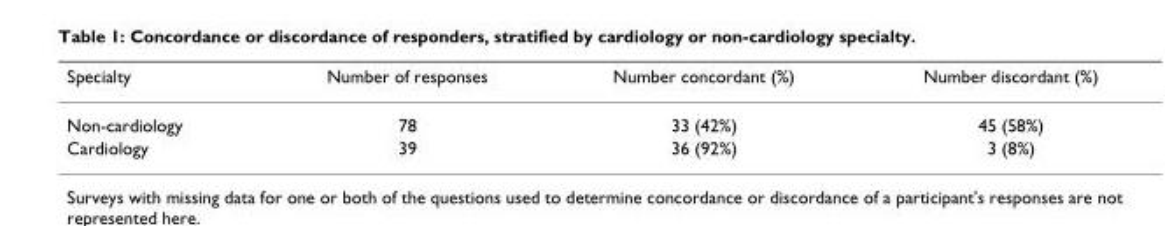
<table><thead><tr><td>Specialty</td><td>Number of responses</td><td>Number concordant (%)</td><td>Number discordant (%)</td></tr></thead><tbody><tr><td>Non-cardiology</td><td>78</td><td>33 (42%)</td><td>45 (58%)</td></tr><tr><td>Cardiology</td><td>39</td><td>36 (92%)</td><td>3 (8%)</td></tr></tbody></table>